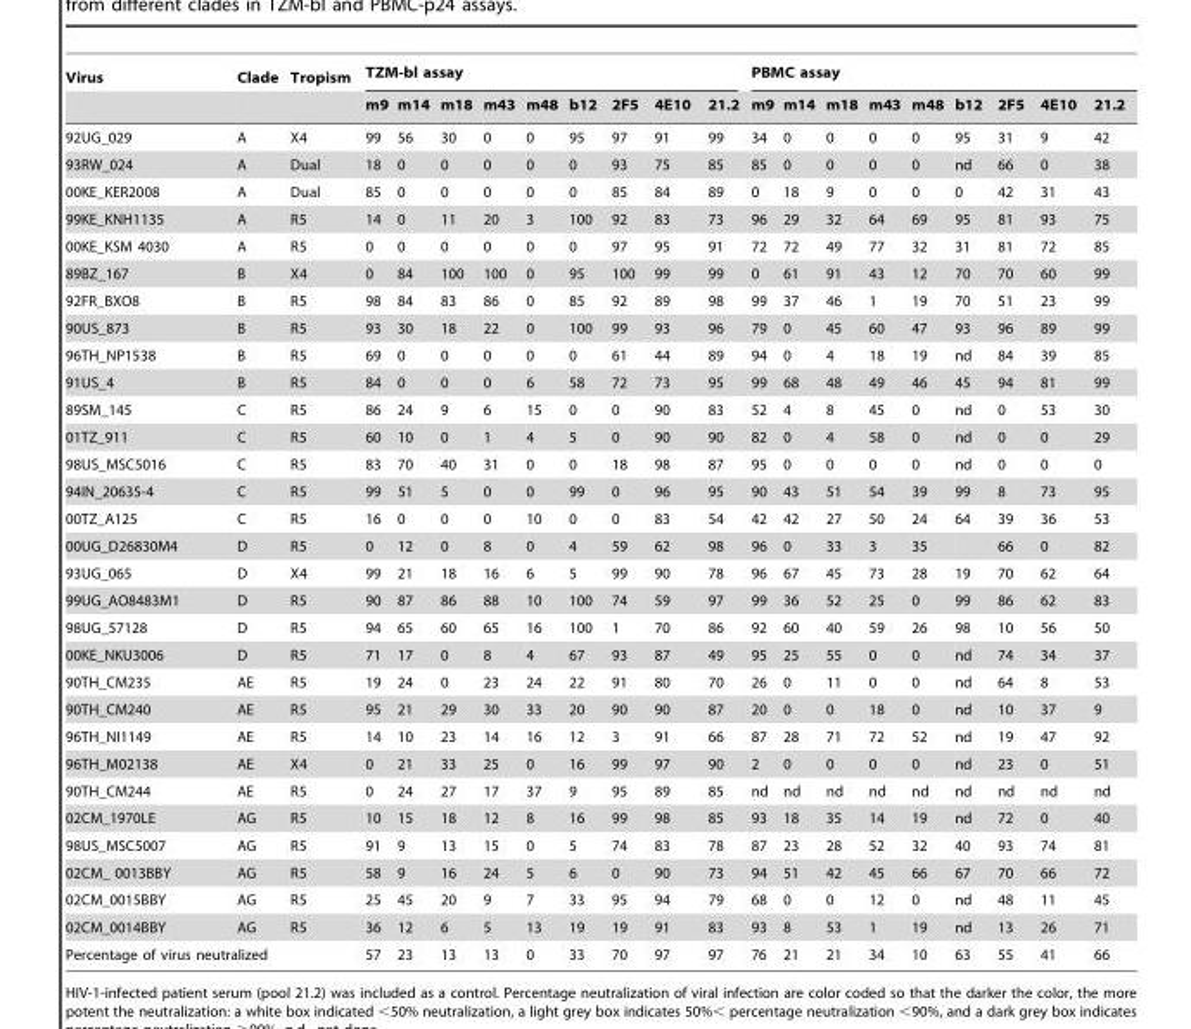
<table><thead><tr><td rowspan="2">Virus</td><td rowspan="2">Clade</td><td rowspan="2">Tropism</td><td colspan="9">TZM-bl assay</td><td colspan="9">PBMC assay</td></tr><tr><td>m9</td><td>m14</td><td>m18</td><td>m43</td><td>m48</td><td>b12</td><td>2F5</td><td>4E10</td><td>21.2</td><td>m9</td><td>m14</td><td>m18</td><td>m43</td><td>m48</td><td>b12</td><td>2F5</td><td>4E10</td><td>21.2</td></tr></thead><tbody><tr><td>92UG_029</td><td>A</td><td>X4</td><td>99</td><td>56</td><td>30</td><td>0</td><td>0</td><td>95</td><td>97</td><td>91</td><td>99</td><td>34</td><td>0</td><td>0</td><td>0</td><td>0</td><td>95</td><td>31</td><td>9</td><td>42</td></tr><tr><td>93RW_024</td><td>A</td><td>Dual</td><td>18</td><td>0</td><td>0</td><td>0</td><td>0</td><td>0</td><td>93</td><td>75</td><td>85</td><td>85</td><td>0</td><td>0</td><td>0</td><td>0</td><td>nd</td><td>66</td><td>0</td><td>38</td></tr><tr><td>00KE_KER2008</td><td>A</td><td>Dual</td><td>85</td><td>0</td><td>0</td><td>0</td><td>0</td><td>0</td><td>85</td><td>84</td><td>89</td><td>0</td><td>18</td><td>9</td><td>0</td><td>0</td><td>0</td><td>42</td><td>31</td><td>43</td></tr><tr><td>99KE_KNH1135</td><td>A</td><td>R5</td><td>14</td><td>0</td><td>11</td><td>20</td><td>3</td><td>100</td><td>92</td><td>83</td><td>73</td><td>96</td><td>29</td><td>32</td><td>64</td><td>69</td><td>95</td><td>81</td><td>93</td><td>75</td></tr><tr><td>00KE_KSM 4030</td><td>A</td><td>R5</td><td>0</td><td>0</td><td>0</td><td>0</td><td>0</td><td>0</td><td>97</td><td>95</td><td>91</td><td>72</td><td>72</td><td>49</td><td>77</td><td>32</td><td>31</td><td>81</td><td>72</td><td>85</td></tr><tr><td>89BZ_167</td><td>B</td><td>X4</td><td>0</td><td>84</td><td>100</td><td>100</td><td>0</td><td>95</td><td>100</td><td>99</td><td>99</td><td>0</td><td>61</td><td>91</td><td>43</td><td>12</td><td>70</td><td>70</td><td>60</td><td>99</td></tr><tr><td>92FR_BXO8</td><td>B</td><td>R5</td><td>98</td><td>84</td><td>83</td><td>86</td><td>0</td><td>85</td><td>92</td><td>89</td><td>98</td><td>99</td><td>37</td><td>46</td><td>1</td><td>19</td><td>70</td><td>51</td><td>23</td><td>99</td></tr><tr><td>90US_873</td><td>B</td><td>R5</td><td>93</td><td>30</td><td>18</td><td>22</td><td>0</td><td>100</td><td>99</td><td>93</td><td>96</td><td>79</td><td>0</td><td>45</td><td>60</td><td>47</td><td>93</td><td>96</td><td>89</td><td>99</td></tr><tr><td>96TH_NP1538</td><td>B</td><td>R5</td><td>69</td><td>0</td><td>0</td><td>0</td><td>0</td><td>0</td><td>61</td><td>44</td><td>89</td><td>94</td><td>0</td><td>4</td><td>18</td><td>19</td><td>nd</td><td>84</td><td>39</td><td>85</td></tr><tr><td>91US_4</td><td>B</td><td>R5</td><td>84</td><td>0</td><td>0</td><td>0</td><td>6</td><td>58</td><td>72</td><td>73</td><td>95</td><td>99</td><td>68</td><td>48</td><td>49</td><td>46</td><td>45</td><td>94</td><td>81</td><td>99</td></tr><tr><td>89SM_145</td><td>C</td><td>R5</td><td>86</td><td>24</td><td>9</td><td>6</td><td>15</td><td>0</td><td>0</td><td>90</td><td>83</td><td>52</td><td>4</td><td>8</td><td>45</td><td>0</td><td>nd</td><td>0</td><td>53</td><td>30</td></tr><tr><td>01TZ_911</td><td>C</td><td>R5</td><td>60</td><td>10</td><td>0</td><td>1</td><td>4</td><td>5</td><td>0</td><td>90</td><td>90</td><td>82</td><td>0</td><td>4</td><td>58</td><td>0</td><td>nd</td><td>0</td><td>0</td><td>29</td></tr><tr><td>98US_MSC5016</td><td>C</td><td>R5</td><td>83</td><td>70</td><td>40</td><td>31</td><td>0</td><td>0</td><td>18</td><td>98</td><td>87</td><td>95</td><td>0</td><td>0</td><td>0</td><td>0</td><td>nd</td><td>0</td><td>0</td><td>0</td></tr><tr><td>94IN_20635-4</td><td>C</td><td>R5</td><td>99</td><td>51</td><td>5</td><td>0</td><td>0</td><td>99</td><td>0</td><td>96</td><td>95</td><td>90</td><td>43</td><td>51</td><td>54</td><td>39</td><td>99</td><td>8</td><td>73</td><td>95</td></tr><tr><td>00TZ_A125</td><td>C</td><td>R5</td><td>16</td><td>0</td><td>0</td><td>0</td><td>10</td><td>0</td><td>0</td><td>83</td><td>54</td><td>42</td><td>42</td><td>27</td><td>50</td><td>24</td><td>64</td><td>39</td><td>36</td><td>53</td></tr><tr><td>00UG_D26830M4</td><td>D</td><td>R5</td><td>0</td><td>12</td><td>0</td><td>8</td><td>0</td><td>4</td><td>59</td><td>62</td><td>98</td><td>96</td><td>0</td><td>33</td><td>3</td><td>35</td><td></td><td>66</td><td>0</td><td>82</td></tr><tr><td>93UG_065</td><td>D</td><td>X4</td><td>99</td><td>21</td><td>18</td><td>16</td><td>6</td><td>5</td><td>99</td><td>90</td><td>78</td><td>96</td><td>67</td><td>45</td><td>73</td><td>28</td><td>19</td><td>70</td><td>62</td><td>64</td></tr><tr><td>99UG_AO8483M1</td><td>D</td><td>R5</td><td>90</td><td>87</td><td>86</td><td>88</td><td>10</td><td>100</td><td>74</td><td>59</td><td>97</td><td>99</td><td>36</td><td>52</td><td>25</td><td>0</td><td>99</td><td>86</td><td>62</td><td>83</td></tr><tr><td>98UG_57128</td><td>D</td><td>R5</td><td>94</td><td>65</td><td>60</td><td>65</td><td>16</td><td>100</td><td>1</td><td>70</td><td>86</td><td>92</td><td>60</td><td>40</td><td>59</td><td>26</td><td>98</td><td>10</td><td>56</td><td>50</td></tr><tr><td>00KE_NKU3006</td><td>D</td><td>R5</td><td>71</td><td>17</td><td>0</td><td>8</td><td>4</td><td>67</td><td>93</td><td>87</td><td>49</td><td>95</td><td>25</td><td>55</td><td>0</td><td>0</td><td>nd</td><td>74</td><td>34</td><td>37</td></tr><tr><td>90TH_CM235</td><td>AE</td><td>R5</td><td>19</td><td>24</td><td>0</td><td>23</td><td>24</td><td>22</td><td>91</td><td>80</td><td>70</td><td>26</td><td>0</td><td>11</td><td>0</td><td>0</td><td>nd</td><td>64</td><td>8</td><td>53</td></tr><tr><td>90TH_CM240</td><td>AE</td><td>R5</td><td>95</td><td>21</td><td>29</td><td>30</td><td>33</td><td>20</td><td>90</td><td>90</td><td>87</td><td>20</td><td>0</td><td>0</td><td>18</td><td>0</td><td>nd</td><td>10</td><td>37</td><td>9</td></tr><tr><td>96TH_NI1149</td><td>AE</td><td>R5</td><td>14</td><td>10</td><td>23</td><td>14</td><td>16</td><td>12</td><td>3</td><td>91</td><td>66</td><td>87</td><td>28</td><td>71</td><td>72</td><td>52</td><td>nd</td><td>19</td><td>47</td><td>92</td></tr><tr><td>96TH_M02138</td><td>AE</td><td>X4</td><td>0</td><td>21</td><td>33</td><td>25</td><td>0</td><td>16</td><td>99</td><td>97</td><td>90</td><td>2</td><td>0</td><td>0</td><td>0</td><td>0</td><td>nd</td><td>23</td><td>0</td><td>51</td></tr><tr><td>90TH_CM244</td><td>AE</td><td>R5</td><td>0</td><td>24</td><td>27</td><td>17</td><td>37</td><td>9</td><td>95</td><td>89</td><td>85</td><td>nd</td><td>nd</td><td>nd</td><td>nd</td><td>nd</td><td>nd</td><td>nd</td><td>nd</td><td>nd</td></tr><tr><td>02CM_1970LE</td><td>AG</td><td>R5</td><td>10</td><td>15</td><td>18</td><td>12</td><td>8</td><td>16</td><td>99</td><td>98</td><td>85</td><td>93</td><td>18</td><td>35</td><td>14</td><td>19</td><td>nd</td><td>72</td><td>0</td><td>40</td></tr><tr><td>98US_MSC5007</td><td>AG</td><td>R5</td><td>91</td><td>9</td><td>13</td><td>15</td><td>0</td><td>5</td><td>74</td><td>83</td><td>78</td><td>87</td><td>23</td><td>28</td><td>52</td><td>32</td><td>40</td><td>93</td><td>74</td><td>81</td></tr><tr><td>02CM_ 0013BBY</td><td>AG</td><td>R5</td><td>58</td><td>9</td><td>16</td><td>24</td><td>5</td><td>6</td><td>0</td><td>90</td><td>73</td><td>94</td><td>51</td><td>42</td><td>45</td><td>66</td><td>67</td><td>70</td><td>66</td><td>72</td></tr><tr><td>02CM_0015BBY</td><td>AG</td><td>R5</td><td>25</td><td>45</td><td>20</td><td>9</td><td>7</td><td>33</td><td>95</td><td>94</td><td>79</td><td>68</td><td>0</td><td>0</td><td>12</td><td>0</td><td>nd</td><td>48</td><td>11</td><td>45</td></tr><tr><td>02CM_0014BBY</td><td>AG</td><td>R5</td><td>36</td><td>12</td><td>6</td><td>5</td><td>13</td><td>19</td><td>19</td><td>91</td><td>83</td><td>93</td><td>8</td><td>53</td><td>1</td><td>19</td><td>nd</td><td>13</td><td>26</td><td>71</td></tr><tr><td colspan="3">Percentage of virus neutralized</td><td>57</td><td>23</td><td>13</td><td>13</td><td>0</td><td>33</td><td>70</td><td>97</td><td>97</td><td>76</td><td>21</td><td>21</td><td>34</td><td>10</td><td>63</td><td>55</td><td>41</td><td>66</td></tr></tbody></table>